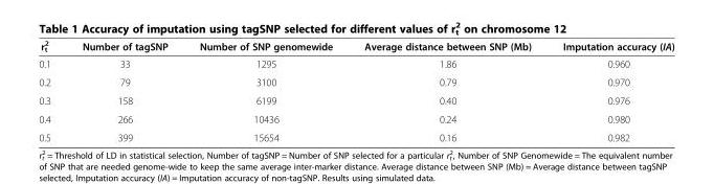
<table><thead><tr><td>r<sub>t</sub> <sup>2</sup></td><td>Number of tagSNP</td><td>Number of SNP genomewide</td><td>Average distance between SNP (Mb)</td><td>Imputation accuracy (IA)</td></tr></thead><tbody><tr><td>0.1</td><td>33</td><td>1295</td><td>1.86</td><td>0.960</td></tr><tr><td>0.2</td><td>79</td><td>3100</td><td>0.79</td><td>0.970</td></tr><tr><td>0.3</td><td>158</td><td>6199</td><td>0.40</td><td>0.976</td></tr><tr><td>0.4</td><td>266</td><td>10436</td><td>0.24</td><td>0.980</td></tr><tr><td>0.5</td><td>399</td><td>15654</td><td>0.16</td><td>0.982</td></tr></tbody></table>